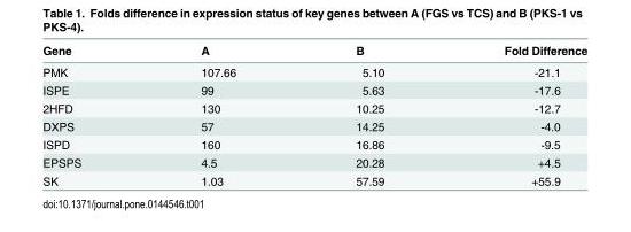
<table><thead><tr><td>Gene</td><td>A</td><td>B</td><td>Fold Difference</td></tr></thead><tbody><tr><td>PMK</td><td>107.66</td><td>5.10</td><td>-21.1</td></tr><tr><td>ISPE</td><td>99</td><td>5.63</td><td>-17.6</td></tr><tr><td>2HFD</td><td>130</td><td>10.25</td><td>-12.7</td></tr><tr><td>DXPS</td><td>57</td><td>14.25</td><td>-4.0</td></tr><tr><td>ISPD</td><td>160</td><td>16.86</td><td>-9.5</td></tr><tr><td>EPSPS</td><td>4.5</td><td>20.28</td><td>+4.5</td></tr><tr><td>SK</td><td>1.03</td><td>57.59</td><td>+55.9</td></tr></tbody></table>